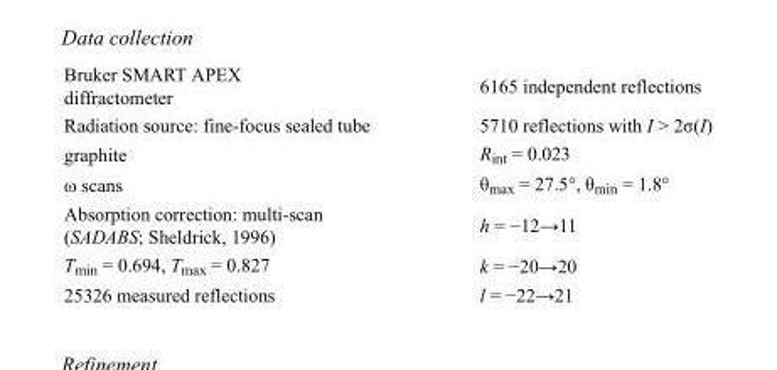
<table><tbody><tr><td>Bruker SMART APEX diffractometer</td><td>6165 independent reflections</td></tr><tr><td>Radiation source: fine-focus sealed tube</td><td>5710 reflections with I &gt; 2σ(I)</td></tr><tr><td>graphite</td><td>R<sub>int</sub> = 0.023</td></tr><tr><td>ω scans</td><td>θ<sub>max</sub> = 27.5°, θ<sub>min</sub> = 1.8°</td></tr><tr><td>Absorption correction: multi-scan (SADABS; Sheldrick, 1996)</td><td>h = −12→11</td></tr><tr><td>T<sub>min</sub> = 0.694, T<sub>max</sub> = 0.827</td><td>k = −20→20</td></tr><tr><td>25326 measured reflections</td><td>l = −22→21</td></tr></tbody></table>